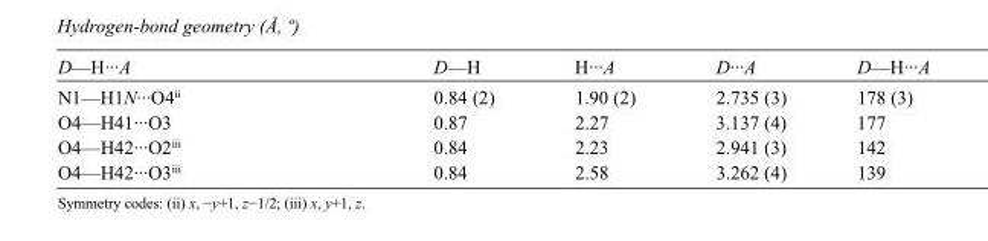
<table><tbody><tr><td>D—H···A</td><td>D—H</td><td>H···A</td><td>D···A</td><td>D—H···A</td></tr><tr><td>N1—H1N···O4<sup>ii</sup></td><td>0.84 (2)</td><td>1.90 (2)</td><td>2.735 (3)</td><td>178 (3)</td></tr><tr><td>O4—H41···O3</td><td>0.87</td><td>2.27</td><td>3.137 (4)</td><td>177</td></tr><tr><td>O4—H42···O2<sup>iii</sup></td><td>0.84</td><td>2.23</td><td>2.941 (3)</td><td>142</td></tr><tr><td>O4—H42···O3<sup>iii</sup></td><td>0.84</td><td>2.58</td><td>3.262 (4)</td><td>139</td></tr></tbody></table>